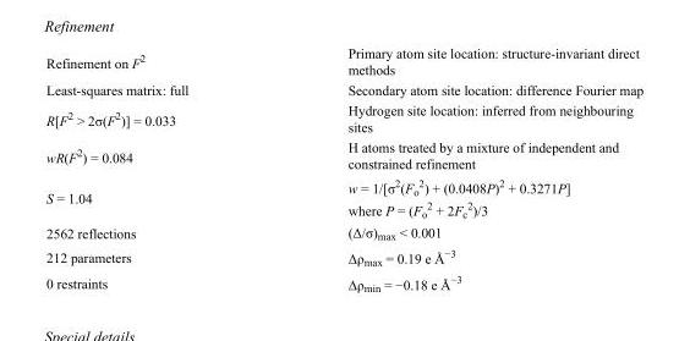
<table><tbody><tr><td>Refinement on F<sup>2</sup></td><td>Primary atom site location: structure-invariant direct methods</td></tr><tr><td>Least-squares matrix: full</td><td>Secondary atom site location: difference Fourier map</td></tr><tr><td>R[F<sup>2</sup> &gt; 2σ(F<sup>2</sup>)] = 0.033</td><td>Hydrogen site location: inferred from neighbouring sites</td></tr><tr><td>wR(F<sup>2</sup>) = 0.084</td><td>H atoms treated by a mixture of independent and constrained refinement</td></tr><tr><td>S = 1.04</td><td>w = 1/[σ<sup>2</sup>(F<sub>o</sub> <sup>2</sup>) + (0.0408P)<sup>2</sup> + 0.3271P] where P = (F<sub>o</sub> <sup>2</sup> + 2F<sub>c</sub> <sup>2</sup>)/3</td></tr><tr><td>2562 reflections</td><td>(Δ/σ)<sub>max</sub> &lt; 0.001</td></tr><tr><td>212 parameters</td><td>Δρ<sub>max</sub> = 0.19 e Å<sup>−3</sup></td></tr><tr><td>0 restraints</td><td>Δρ<sub>min</sub> = −0.18 e Å<sup>−3</sup></td></tr></tbody></table>